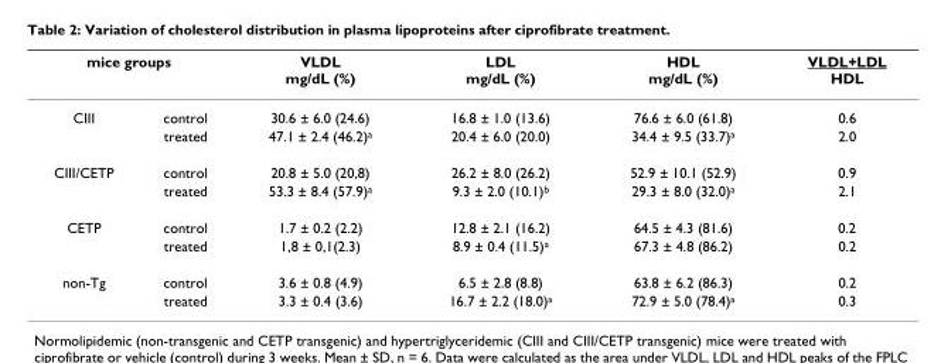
<table><thead><tr><td colspan="2">mice groups</td><td rowspan="2">VLDL mg/dL (%) 30.6 ± 6.0 (24.6)</td><td rowspan="2">LDL mg/dL (%) 16.8 ± 1.0 (13.6)</td><td rowspan="2">HDL mg/dL (%) 76.6 ± 6.0 (61.8)</td><td rowspan="2">VLDL+LDL HDL 0.6</td></tr><tr><td>CIII</td><td>control</td></tr></thead><tbody><tr><td></td><td>treated</td><td>47.1 ± 2.4 (46.2)<sup>a</sup></td><td>20.4 ± 6.0 (20.0)</td><td>34.4 ± 9.5 (33.7)<sup>a</sup></td><td>2.0</td></tr><tr><td rowspan="2">CIII/CETP</td><td>control</td><td>20.8 ± 5.0 (20,8)</td><td>26.2 ± 8.0 (26.2)</td><td>52.9 ± 10.1 (52.9)</td><td>0.9</td></tr><tr><td>treated</td><td>53.3 ± 8.4 (57.9)<sup>a</sup></td><td>9.3 ± 2.0 (10.1)<sup>b</sup></td><td>29.3 ± 8.0 (32.0)<sup>a</sup></td><td>2.1</td></tr><tr><td rowspan="2">CETP</td><td>control</td><td>1.7 ± 0.2 (2.2)</td><td>12.8 ± 2.1 (16.2)</td><td>64.5 ± 4.3 (81.6)</td><td>0.2</td></tr><tr><td>treated</td><td>1,8 ± 0,1(2.3)</td><td>8.9 ± 0.4 (11.5)<sup>a</sup></td><td>67.3 ± 4.8 (86.2)</td><td>0.2</td></tr><tr><td rowspan="2">non-Tg</td><td>control</td><td>3.6 ± 0.8 (4.9)</td><td>6.5 ± 2.8 (8.8)</td><td>63.8 ± 6.2 (86.3)</td><td>0.2</td></tr><tr><td>treated</td><td>3.3 ± 0.4 (3.6)</td><td>16.7 ± 2.2 (18.0)<sup>a</sup></td><td>72.9 ± 5.0 (78.4)<sup>a</sup></td><td>0.3</td></tr></tbody></table>